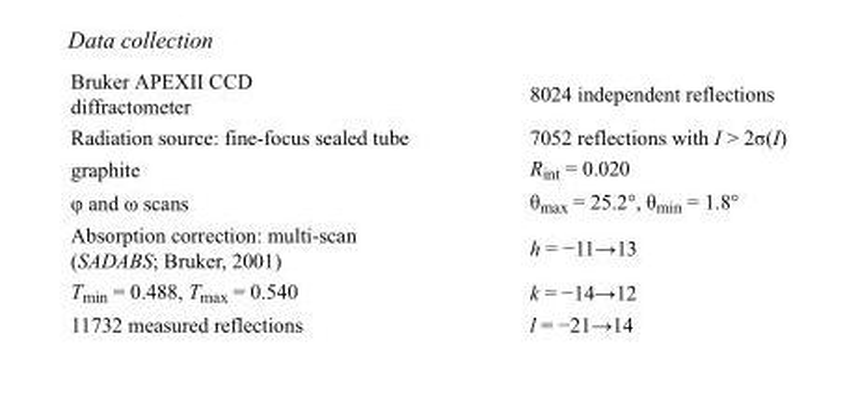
<table><tbody><tr><td>Bruker APEXII CCD diffractometer</td><td>8024 independent reflections</td></tr><tr><td>Radiation source: fine-focus sealed tube</td><td>7052 reflections with I &gt; 2σ(I)</td></tr><tr><td>graphite</td><td>R<sub>int</sub> = 0.020</td></tr><tr><td>φ and ω scans</td><td>θ<sub>max</sub> = 25.2°, θ<sub>min</sub> = 1.8°</td></tr><tr><td>Absorption correction: multi-scan (SADABS; Bruker, 2001)</td><td>h = −11→13</td></tr><tr><td>T<sub>min</sub> = 0.488, T<sub>max</sub> = 0.540</td><td>k = −14→12</td></tr><tr><td>11732 measured reflections</td><td>l = −21→14</td></tr></tbody></table>